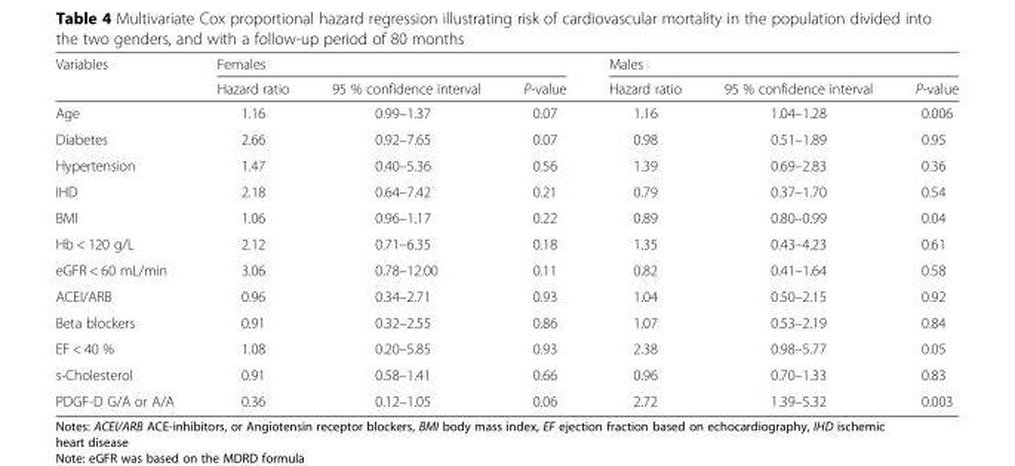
<table><thead><tr><td rowspan="2">Variables</td><td colspan="3">Females</td><td colspan="3">Males</td></tr><tr><td>Hazard ratio</td><td>95 % confidence interval</td><td>P-value</td><td>Hazard ratio</td><td>95 % confidence interval</td><td>P-value</td></tr></thead><tbody><tr><td>Age</td><td>1.16</td><td>0.99–1.37</td><td>0.07</td><td>1.16</td><td>1.04–1.28</td><td>0.006</td></tr><tr><td>Diabetes</td><td>2.66</td><td>0.92–7.65</td><td>0.07</td><td>0.98</td><td>0.51–1.89</td><td>0.95</td></tr><tr><td>Hypertension</td><td>1.47</td><td>0.40–5.36</td><td>0.56</td><td>1.39</td><td>0.69–2.83</td><td>0.36</td></tr><tr><td>IHD</td><td>2.18</td><td>0.64–7.42</td><td>0.21</td><td>0.79</td><td>0.37–1.70</td><td>0.54</td></tr><tr><td>BMI</td><td>1.06</td><td>0.96–1.17</td><td>0.22</td><td>0.89</td><td>0.80–0.99</td><td>0.04</td></tr><tr><td>Hb &lt; 120 g/L</td><td>2.12</td><td>0.71–6.35</td><td>0.18</td><td>1.35</td><td>0.43–4.23</td><td>0.61</td></tr><tr><td>eGFR &lt; 60 mL/min</td><td>3.06</td><td>0.78–12.00</td><td>0.11</td><td>0.82</td><td>0.41–1.64</td><td>0.58</td></tr><tr><td>ACEI/ARB</td><td>0.96</td><td>0.34–2.71</td><td>0.93</td><td>1.04</td><td>0.50–2.15</td><td>0.92</td></tr><tr><td>Beta blockers</td><td>0.91</td><td>0.32–2.55</td><td>0.86</td><td>1.07</td><td>0.53–2.19</td><td>0.84</td></tr><tr><td>EF &lt; 40 %</td><td>1.08</td><td>0.20–5.85</td><td>0.93</td><td>2.38</td><td>0.98–5.77</td><td>0.05</td></tr><tr><td>s-Cholesterol</td><td>0.91</td><td>0.58–1.41</td><td>0.66</td><td>0.96</td><td>0.70–1.33</td><td>0.83</td></tr><tr><td>PDGF-D G/A or A/A</td><td>0.36</td><td>0.12–1.05</td><td>0.06</td><td>2.72</td><td>1.39–5.32</td><td>0.003</td></tr></tbody></table>